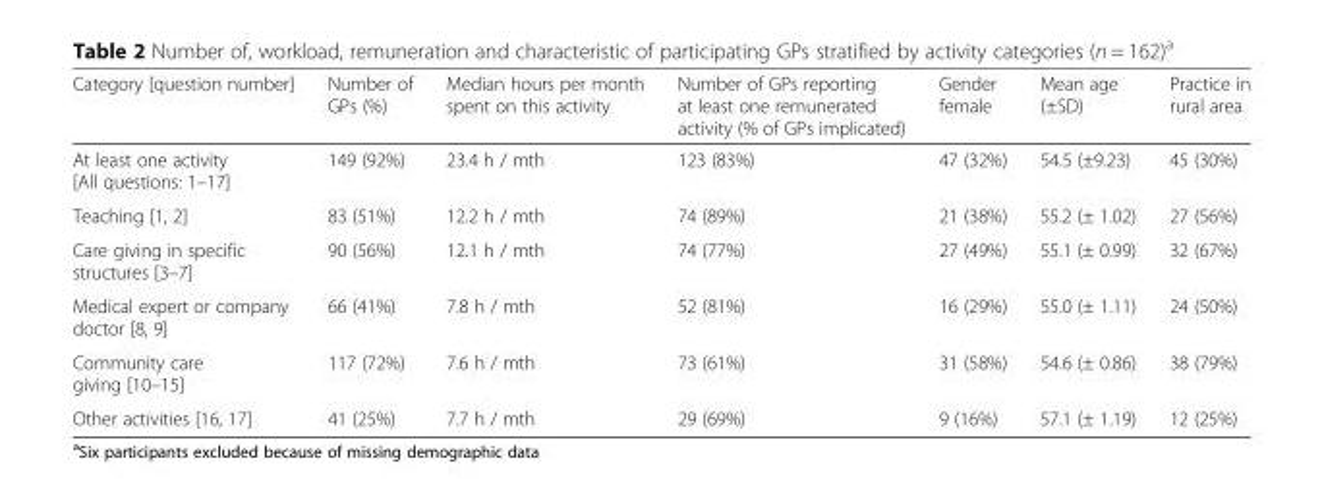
<table><thead><tr><td>Category [question number]</td><td>Number of GPs (%)</td><td>Median hours per month spent on this activity</td><td>Number of GPs reporting at least one remunerated activity (% of GPs implicated)</td><td>Gender female</td><td>Mean age (±SD)</td><td>Practice in rural area</td></tr></thead><tbody><tr><td>At least one activity [All questions: 1–17]</td><td>149 (92%)</td><td>23.4 h / mth</td><td>123 (83%)</td><td>47 (32%)</td><td>54.5 (±9.23)</td><td>45 (30%)</td></tr><tr><td>Teaching [1, 2]</td><td>83 (51%)</td><td>12.2 h / mth</td><td>74 (89%)</td><td>21 (38%)</td><td>55.2 (± 1.02)</td><td>27 (56%)</td></tr><tr><td>Care giving in specific structures [3–7]</td><td>90 (56%)</td><td>12.1 h / mth</td><td>74 (77%)</td><td>27 (49%)</td><td>55.1 (± 0.99)</td><td>32 (67%)</td></tr><tr><td>Medical expert or company doctor [8, 9]</td><td>66 (41%)</td><td>7.8 h / mth</td><td>52 (81%)</td><td>16 (29%)</td><td>55.0 (± 1.11)</td><td>24 (50%)</td></tr><tr><td>Community care giving [10–15]</td><td>117 (72%)</td><td>7.6 h / mth</td><td>73 (61%)</td><td>31 (58%)</td><td>54.6 (± 0.86)</td><td>38 (79%)</td></tr><tr><td>Other activities [16, 17]</td><td>41 (25%)</td><td>7.7 h / mth</td><td>29 (69%)</td><td>9 (16%)</td><td>57.1 (± 1.19)</td><td>12 (25%)</td></tr></tbody></table>